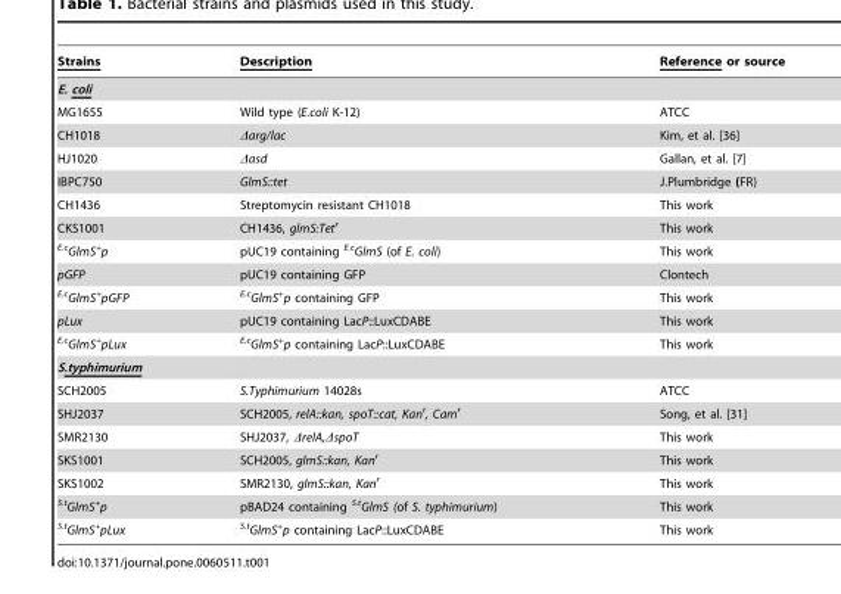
<table><thead><tr><td>Strains</td><td>Description</td><td>Reference or source</td></tr></thead><tbody><tr><td colspan="3">E. coli</td></tr><tr><td>MG1655</td><td>Wild type (E.coli K-12)</td><td>ATCC</td></tr><tr><td>CH1018</td><td>Δarg/lac</td><td>Kim, et al. [36]</td></tr><tr><td>HJ1020</td><td>Δasd</td><td>Gallan, et al. [7]</td></tr><tr><td>IBPC750</td><td>GlmS::tet</td><td>J.Plumbridge (FR)</td></tr><tr><td>CH1436</td><td>Streptomycin resistant CH1018</td><td>This work</td></tr><tr><td>CKS1001</td><td>CH1436, glmS:Tet<sup>r</sup></td><td>This work</td></tr><tr><td><sup>E.c</sup>GlmS<sup>+</sup>p</td><td>pUC19 containing <sup>E.c</sup>GlmS (of E. coli)</td><td>This work</td></tr><tr><td>pGFP</td><td>pUC19 containing GFP</td><td>Clontech</td></tr><tr><td><sup>E.c</sup>GlmS<sup>+</sup>pGFP</td><td><sup>E.c</sup>GlmS<sup>+</sup>p containing GFP</td><td>This work</td></tr><tr><td>pLux</td><td>pUC19 containing LacP::LuxCDABE</td><td>This work</td></tr><tr><td><sup>E.c</sup>GlmS<sup>+</sup>pLux</td><td><sup>E.c</sup>GlmS<sup>+</sup>p containing LacP::LuxCDABE</td><td>This work</td></tr><tr><td colspan="3">S.typhimurium</td></tr><tr><td>SCH2005</td><td>S.Typhimurium 14028s</td><td>ATCC</td></tr><tr><td>SHJ2037</td><td>SCH2005, relA::kan, spoT::cat, Kan<sup>r</sup>, Cam<sup>r</sup></td><td>Song, et al. [31]</td></tr><tr><td>SMR2130</td><td>SHJ2037, ΔrelA,ΔspoT</td><td>This work</td></tr><tr><td>SKS1001</td><td>SCH2005, glmS::kan, Kan<sup>r</sup></td><td>This work</td></tr><tr><td>SKS1002</td><td>SMR2130, glmS::kan, Kan<sup>r</sup></td><td>This work</td></tr><tr><td><sup>S.t</sup>GlmS<sup>+</sup>p</td><td>pBAD24 containing <sup>S.t</sup>GlmS (of S. typhimurium)</td><td>This work</td></tr><tr><td><sup>S.t</sup>GlmS<sup>+</sup>pLux</td><td><sup>S.t</sup>GlmS<sup>+</sup>p containing LacP::LuxCDABE</td><td>This work</td></tr></tbody></table>